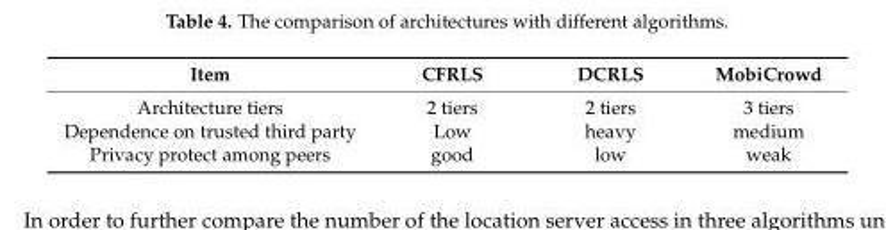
<table><thead><tr><td>Item</td><td>CFRLS</td><td>DCRLS</td><td>MobiCrowd</td></tr></thead><tbody><tr><td>Architecture tiers</td><td>2 tiers</td><td>2 tiers</td><td>3 tiers</td></tr><tr><td>Dependence on trusted third party</td><td>Low</td><td>heavy</td><td>medium</td></tr><tr><td>Privacy protect among peers</td><td>good</td><td>low</td><td>weak</td></tr></tbody></table>